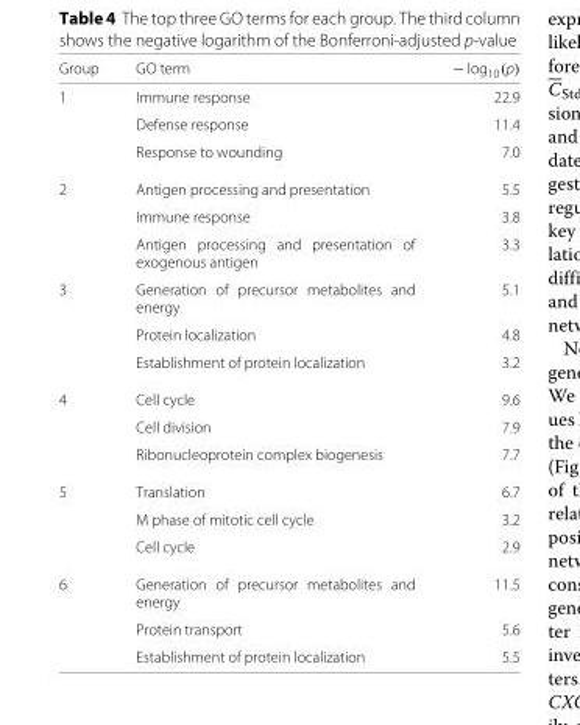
<table><thead><tr><td>Group</td><td>GO term</td><td>− log10(p)</td></tr></thead><tbody><tr><td rowspan="3">1</td><td>Immune response</td><td>22.9</td></tr><tr><td>Defense response</td><td>11.4</td></tr><tr><td>Response to wounding</td><td>7.0</td></tr><tr><td rowspan="3">2</td><td>Antigen processing and presentation</td><td>5.5</td></tr><tr><td>Immune response</td><td>3.8</td></tr><tr><td>Antigen processing and presentation of exogenous antigen</td><td>3.3</td></tr><tr><td rowspan="3">3</td><td>Generation of precursor metabolites and energy</td><td>5.1</td></tr><tr><td>Protein localization</td><td>4.8</td></tr><tr><td>Establishment of protein localization</td><td>3.2</td></tr><tr><td rowspan="3">4</td><td>Cell cycle</td><td>9.6</td></tr><tr><td>Cell division</td><td>7.9</td></tr><tr><td>Ribonucleoprotein complex biogenesis</td><td>7.7</td></tr><tr><td rowspan="3">5</td><td>Translation</td><td>6.7</td></tr><tr><td>M phase of mitotic cell cycle</td><td>3.2</td></tr><tr><td>Cell cycle</td><td>2.9</td></tr><tr><td rowspan="3">6</td><td>Generation of precursor metabolites and energy</td><td>11.5</td></tr><tr><td>Protein transport</td><td>5.6</td></tr><tr><td>Establishment of protein localization</td><td>5.5</td></tr></tbody></table>